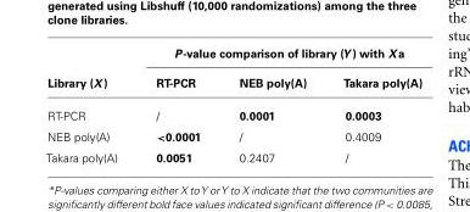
<table><thead><tr><td rowspan="2">Library (X )</td><td colspan="3">P-value comparison of library (Y ) with X a</td></tr><tr><td>RT-PCR</td><td>NEB poly(A)</td><td>Takara poly(A)</td></tr></thead><tbody><tr><td>RT-PCR</td><td>/</td><td>0.0001</td><td>0.0003</td></tr><tr><td>NEB poly(A)</td><td>&lt;0.0001</td><td>/</td><td>0.4009</td></tr><tr><td>Takara poly(A)</td><td>0.0051</td><td>0.2407</td><td>/</td></tr></tbody></table>